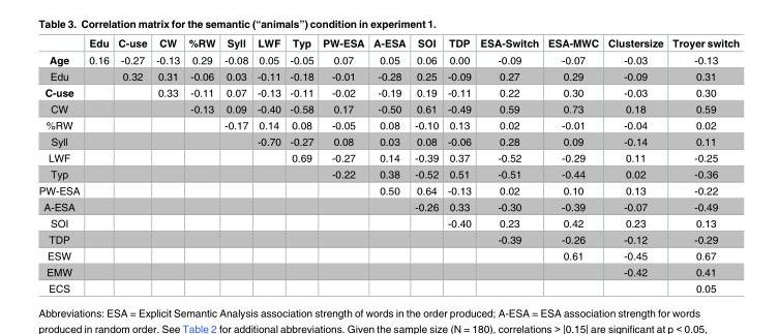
<table><thead><tr><td></td><td>Edu</td><td>C-use</td><td>CW</td><td>%RW</td><td>Syll</td><td>LWF</td><td>Typ</td><td>PW-ESA</td><td>A-ESA</td><td>SOI</td><td>TDP</td><td>ESA-Switch</td><td>ESA-MWC</td><td>Clustersize</td><td>Troyer switch</td></tr></thead><tbody><tr><td>Age</td><td>0.16</td><td>-0.27</td><td>-0.13</td><td>0.29</td><td>-0.08</td><td>0.05</td><td>-0.05</td><td>0.07</td><td>0.05</td><td>0.06</td><td>0.00</td><td>-0.09</td><td>-0.07</td><td>-0.03</td><td>-0.13</td></tr><tr><td>Edu</td><td></td><td>0.32</td><td>0.31</td><td>-0.06</td><td>0.03</td><td>-0.11</td><td>-0.18</td><td>-0.01</td><td>-0.28</td><td>0.25</td><td>-0.09</td><td>0.27</td><td>0.29</td><td>-0.09</td><td>0.31</td></tr><tr><td>C-use</td><td></td><td></td><td>0.33</td><td>-0.11</td><td>0.07</td><td>-0.13</td><td>-0.11</td><td>-0.02</td><td>-0.19</td><td>0.19</td><td>-0.11</td><td>0.22</td><td>0.30</td><td>-0.03</td><td>0.30</td></tr><tr><td>CW</td><td></td><td></td><td></td><td>-0.13</td><td>0.09</td><td>-0.40</td><td>-0.58</td><td>0.17</td><td>-0.50</td><td>0.61</td><td>-0.49</td><td>0.59</td><td>0.73</td><td>0.18</td><td>0.59</td></tr><tr><td>%RW</td><td></td><td></td><td></td><td></td><td>-0.17</td><td>0.14</td><td>0.08</td><td>-0.05</td><td>0.08</td><td>-0.10</td><td>0.13</td><td>0.02</td><td>-0.01</td><td>-0.04</td><td>0.02</td></tr><tr><td>Syll</td><td></td><td></td><td></td><td></td><td></td><td>-0.70</td><td>-0.27</td><td>0.08</td><td>0.03</td><td>0.08</td><td>-0.06</td><td>0.28</td><td>0.09</td><td>-0.14</td><td>0.11</td></tr><tr><td>LWF</td><td></td><td></td><td></td><td></td><td></td><td></td><td>0.69</td><td>-0.27</td><td>0.14</td><td>-0.39</td><td>0.37</td><td>-0.52</td><td>-0.29</td><td>0.11</td><td>-0.25</td></tr><tr><td>Typ</td><td></td><td></td><td></td><td></td><td></td><td></td><td></td><td>-0.22</td><td>0.38</td><td>-0.52</td><td>0.51</td><td>-0.51</td><td>-0.44</td><td>0.02</td><td>-0.36</td></tr><tr><td>PW-ESA</td><td></td><td></td><td></td><td></td><td></td><td></td><td></td><td></td><td>0.50</td><td>0.64</td><td>-0.13</td><td>0.02</td><td>0.10</td><td>0.13</td><td>-0.22</td></tr><tr><td>A-ESA</td><td></td><td></td><td></td><td></td><td></td><td></td><td></td><td></td><td></td><td>-0.26</td><td>0.33</td><td>-0.30</td><td>-0.39</td><td>-0.07</td><td>-0.49</td></tr><tr><td>SOI</td><td></td><td></td><td></td><td></td><td></td><td></td><td></td><td></td><td></td><td></td><td>-0.40</td><td>0.23</td><td>0.42</td><td>0.23</td><td>0.13</td></tr><tr><td>TDP</td><td></td><td></td><td></td><td></td><td></td><td></td><td></td><td></td><td></td><td></td><td></td><td>-0.39</td><td>-0.26</td><td>-0.12</td><td>-0.29</td></tr><tr><td>ESW</td><td></td><td></td><td></td><td></td><td></td><td></td><td></td><td></td><td></td><td></td><td></td><td></td><td>0.61</td><td>-0.45</td><td>0.67</td></tr><tr><td>EMW</td><td></td><td></td><td></td><td></td><td></td><td></td><td></td><td></td><td></td><td></td><td></td><td></td><td></td><td>-0.42</td><td>0.41</td></tr><tr><td>ECS</td><td></td><td></td><td></td><td></td><td></td><td></td><td></td><td></td><td></td><td></td><td></td><td></td><td></td><td></td><td>0.05</td></tr></tbody></table>